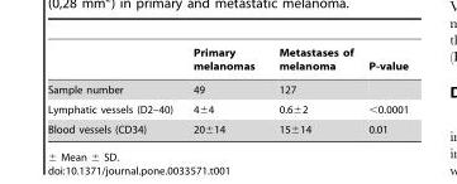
<table><thead><tr><td></td><td>Primary melanomas</td><td>Metastases of melanoma</td><td>P-value</td></tr></thead><tbody><tr><td>Sample number</td><td>49</td><td>127</td><td></td></tr><tr><td>Lymphatic vessels (D2–40)</td><td>4±4</td><td>0.6±2</td><td>&lt;0.0001</td></tr><tr><td>Blood vessels (CD34)</td><td>20±14</td><td>15±14</td><td>0.01</td></tr></tbody></table>